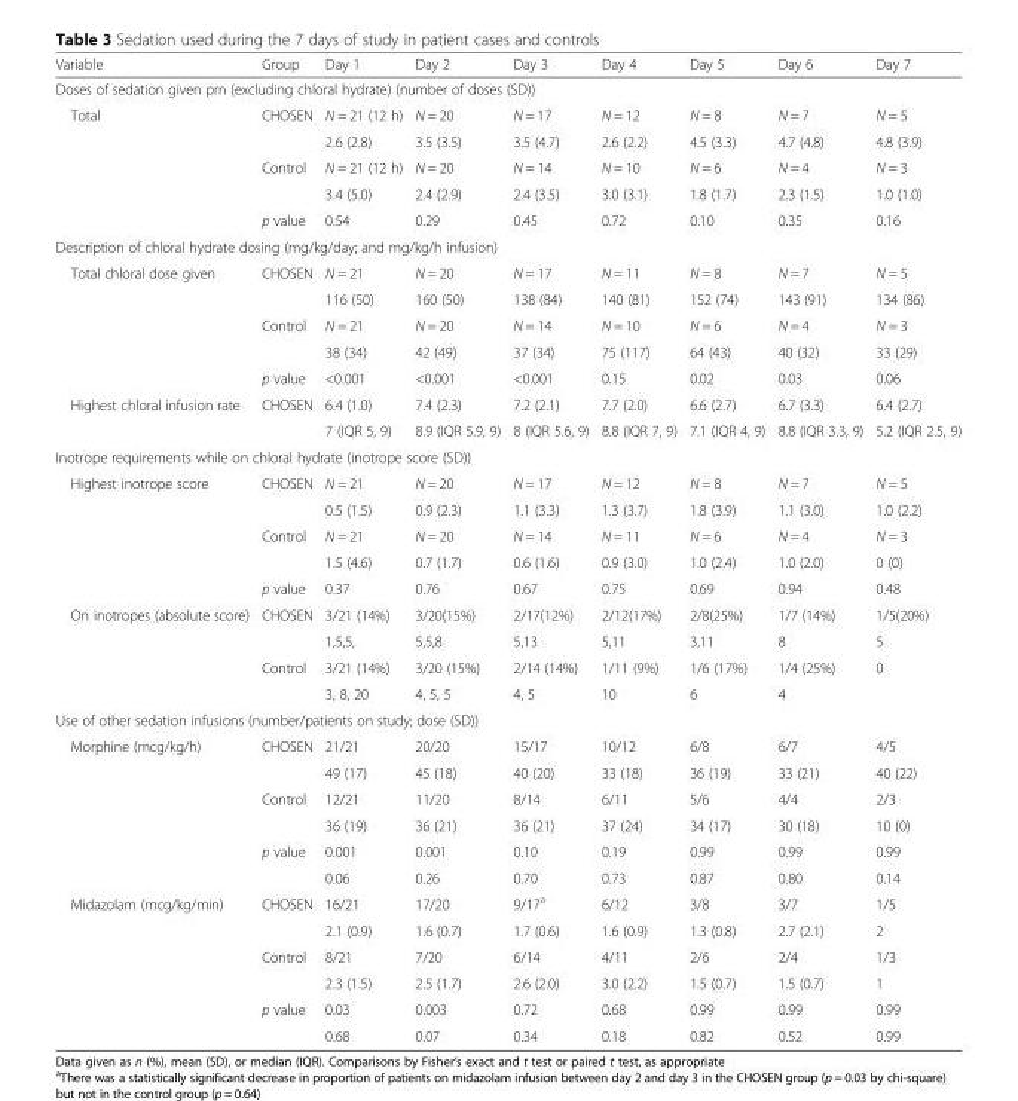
<table><thead><tr><td>Variable</td><td>Group</td><td>Day 1</td><td>Day 2</td><td>Day 3</td><td>Day 4</td><td>Day 5</td><td>Day 6</td><td>Day 7</td></tr></thead><tbody><tr><td colspan="9">Doses of sedation given prn (excluding chloral hydrate) (number of doses (SD))</td></tr><tr><td rowspan="5">Total</td><td rowspan="2">CHOSEN</td><td>N = 21 (12 h)</td><td>N = 20</td><td>N = 17</td><td>N = 12</td><td>N = 8</td><td>N = 7</td><td>N = 5</td></tr><tr><td>2.6 (2.8)</td><td>3.5 (3.5)</td><td>3.5 (4.7)</td><td>2.6 (2.2)</td><td>4.5 (3.3)</td><td>4.7 (4.8)</td><td>4.8 (3.9)</td></tr><tr><td rowspan="2">Control</td><td>N = 21 (12 h)</td><td>N = 20</td><td>N = 14</td><td>N = 10</td><td>N = 6</td><td>N = 4</td><td>N = 3</td></tr><tr><td>3.4 (5.0)</td><td>2.4 (2.9)</td><td>2.4 (3.5)</td><td>3.0 (3.1)</td><td>1.8 (1.7)</td><td>2.3 (1.5)</td><td>1.0 (1.0)</td></tr><tr><td>p value</td><td>0.54</td><td>0.29</td><td>0.45</td><td>0.72</td><td>0.10</td><td>0.35</td><td>0.16</td></tr><tr><td colspan="9">Description of chloral hydrate dosing (mg/kg/day; and mg/kg/h infusion)</td></tr><tr><td rowspan="5">Total chloral dose given</td><td rowspan="2">CHOSEN</td><td>N = 21</td><td>N = 20</td><td>N = 17</td><td>N = 11</td><td>N = 8</td><td>N = 7</td><td>N = 5</td></tr><tr><td>116 (50)</td><td>160 (50)</td><td>138 (84)</td><td>140 (81)</td><td>152 (74)</td><td>143 (91)</td><td>134 (86)</td></tr><tr><td rowspan="2">Control</td><td>N = 21</td><td>N = 20</td><td>N = 14</td><td>N = 10</td><td>N = 6</td><td>N = 4</td><td>N = 3</td></tr><tr><td>38 (34)</td><td>42 (49)</td><td>37 (34)</td><td>75 (117)</td><td>64 (43)</td><td>40 (32)</td><td>33 (29)</td></tr><tr><td>p value</td><td>&lt;0.001</td><td>&lt;0.001</td><td>&lt;0.001</td><td>0.15</td><td>0.02</td><td>0.03</td><td>0.06</td></tr><tr><td rowspan="2">Highest chloral infusion rate</td><td rowspan="2">CHOSEN</td><td>6.4 (1.0)</td><td>7.4 (2.3)</td><td>7.2 (2.1)</td><td>7.7 (2.0)</td><td>6.6 (2.7)</td><td>6.7 (3.3)</td><td>6.4 (2.7)</td></tr><tr><td>7 (IQR 5, 9)</td><td>8.9 (IQR 5.9, 9)</td><td>8 (IQR 5.6, 9)</td><td>8.8 (IQR 7, 9)</td><td>7.1 (IQR 4, 9)</td><td>8.8 (IQR 3.3, 9)</td><td>5.2 (IQR 2.5, 9)</td></tr><tr><td colspan="9">Inotrope requirements while on chloral hydrate (inotrope score (SD))</td></tr><tr><td rowspan="5">Highest inotrope score</td><td rowspan="2">CHOSEN</td><td>N = 21</td><td>N = 20</td><td>N = 17</td><td>N = 12</td><td>N = 8</td><td>N = 7</td><td>N = 5</td></tr><tr><td>0.5 (1.5)</td><td>0.9 (2.3)</td><td>1.1 (3.3)</td><td>1.3 (3.7)</td><td>1.8 (3.9)</td><td>1.1 (3.0)</td><td>1.0 (2.2)</td></tr><tr><td rowspan="2">Control</td><td>N = 21</td><td>N = 20</td><td>N = 14</td><td>N = 11</td><td>N = 6</td><td>N = 4</td><td>N = 3</td></tr><tr><td>1.5 (4.6)</td><td>0.7 (1.7)</td><td>0.6 (1.6)</td><td>0.9 (3.0)</td><td>1.0 (2.4)</td><td>1.0 (2.0)</td><td>0 (0)</td></tr><tr><td>p value</td><td>0.37</td><td>0.76</td><td>0.67</td><td>0.75</td><td>0.69</td><td>0.94</td><td>0.48</td></tr><tr><td rowspan="4">On inotropes (absolute score)</td><td rowspan="2">CHOSEN</td><td>3/21 (14%)</td><td>3/20(15%)</td><td>2/17(12%)</td><td>2/12(17%)</td><td>2/8(25%)</td><td>1/7 (14%)</td><td>1/5(20%)</td></tr><tr><td>1,5,5,</td><td>5,5,8</td><td>5,13</td><td>5,11</td><td>3,11</td><td>8</td><td>5</td></tr><tr><td rowspan="2">Control</td><td>3/21 (14%)</td><td>3/20 (15%)</td><td>2/14 (14%)</td><td>1/11 (9%)</td><td>1/6 (17%)</td><td>1/4 (25%)</td><td rowspan="2">0</td></tr><tr><td>3, 8, 20</td><td>4, 5, 5</td><td>4, 5</td><td>10</td><td>6</td><td>4</td></tr><tr><td colspan="9">Use of other sedation infusions (number/patients on study; dose (SD))</td></tr><tr><td rowspan="6">Morphine (mcg/kg/h)</td><td rowspan="2">CHOSEN</td><td>21/21</td><td>20/20</td><td>15/17</td><td>10/12</td><td>6/8</td><td>6/7</td><td>4/5</td></tr><tr><td>49 (17)</td><td>45 (18)</td><td>40 (20)</td><td>33 (18)</td><td>36 (19)</td><td>33 (21)</td><td>40 (22)</td></tr><tr><td rowspan="2">Control</td><td>12/21</td><td>11/20</td><td>8/14</td><td>6/11</td><td>5/6</td><td>4/4</td><td>2/3</td></tr><tr><td>36 (19)</td><td>36 (21)</td><td>36 (21)</td><td>37 (24)</td><td>34 (17)</td><td>30 (18)</td><td>10 (0)</td></tr><tr><td rowspan="2">p value</td><td>0.001</td><td>0.001</td><td>0.10</td><td>0.19</td><td>0.99</td><td>0.99</td><td>0.99</td></tr><tr><td>0.06</td><td>0.26</td><td>0.70</td><td>0.73</td><td>0.87</td><td>0.80</td><td>0.14</td></tr><tr><td rowspan="6">Midazolam (mcg/kg/min)</td><td rowspan="2">CHOSEN</td><td>16/21</td><td>17/20</td><td>9/17<sup>a</sup></td><td>6/12</td><td>3/8</td><td>3/7</td><td>1/5</td></tr><tr><td>2.1 (0.9)</td><td>1.6 (0.7)</td><td>1.7 (0.6)</td><td>1.6 (0.9)</td><td>1.3 (0.8)</td><td>2.7 (2.1)</td><td>2</td></tr><tr><td rowspan="2">Control</td><td>8/21</td><td>7/20</td><td>6/14</td><td>4/11</td><td>2/6</td><td>2/4</td><td>1/3</td></tr><tr><td>2.3 (1.5)</td><td>2.5 (1.7)</td><td>2.6 (2.0)</td><td>3.0 (2.2)</td><td>1.5 (0.7)</td><td>1.5 (0.7)</td><td>1</td></tr><tr><td rowspan="2">p value</td><td>0.03</td><td>0.003</td><td>0.72</td><td>0.68</td><td>0.99</td><td>0.99</td><td>0.99</td></tr><tr><td>0.68</td><td>0.07</td><td>0.34</td><td>0.18</td><td>0.82</td><td>0.52</td><td>0.99</td></tr></tbody></table>